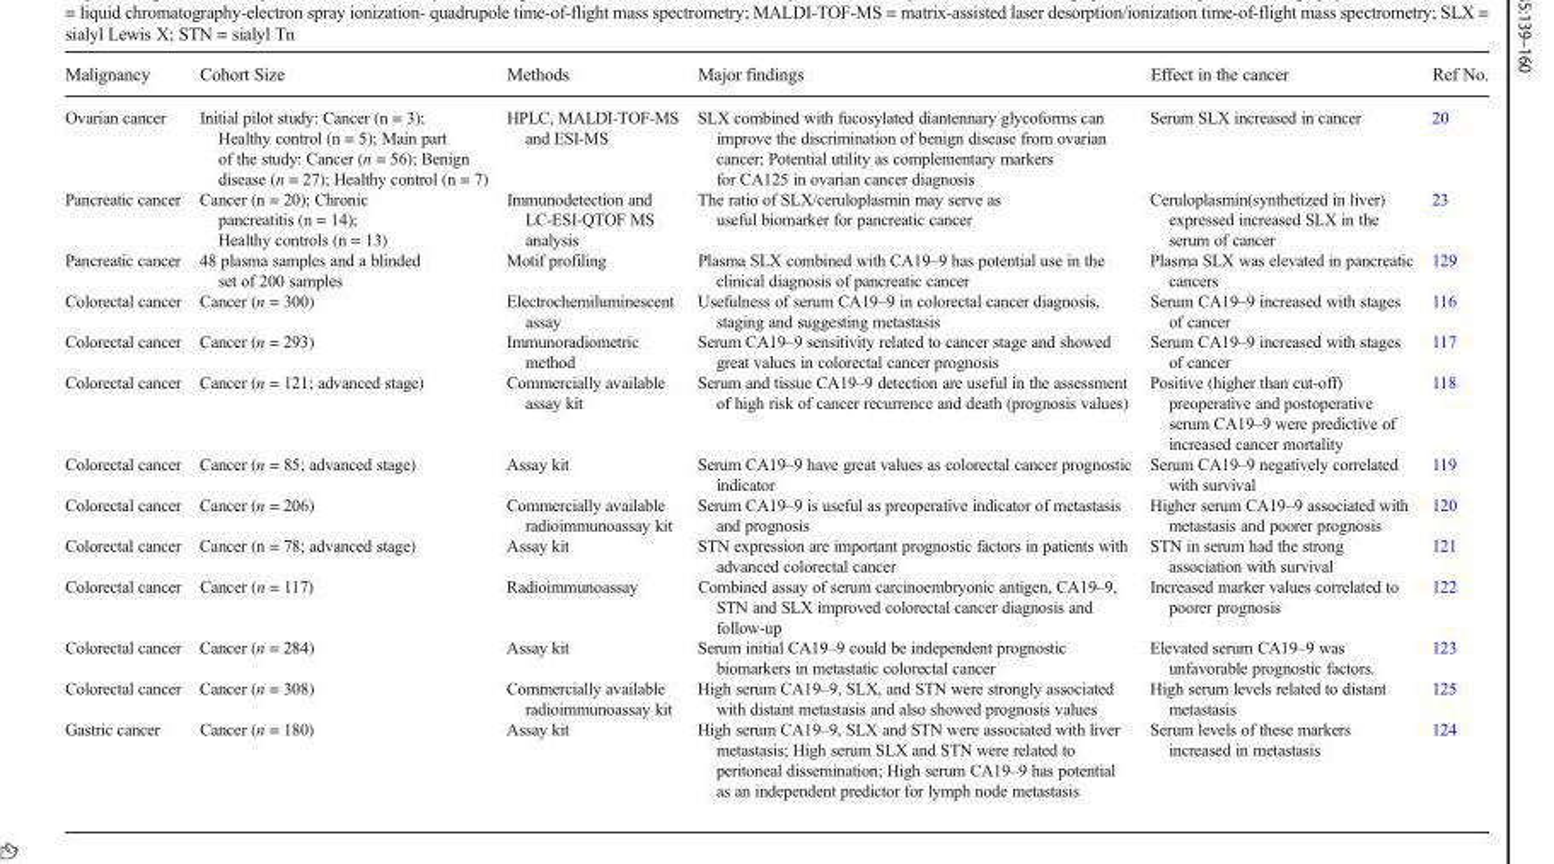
<table><thead><tr><td>Malignancy</td><td>Cohort Size</td><td>Methods</td><td>Major findings</td><td>Effect in the cancer</td><td>Ref No.</td></tr></thead><tbody><tr><td>Ovarian cancer</td><td>Initial pilot study: Cancer (n = 3); Healthy control (n = 5); Main part of the study: Cancer (n = 56); Benign disease (n = 27); Healthy control (n = 7)</td><td>HPLC, MALDI-TOF-MS and ESI-MS</td><td>SLX combined with fucosylated diantennary glycoforms can improve the discrimination of benign disease from ovarian cancer; Potential utility as complementary markers for CA125 in ovarian cancer diagnosis</td><td>Serum SLX increased in cancer</td><td>20</td></tr><tr><td>Pancreatic cancer</td><td>Cancer (n = 20); Chronic pancreatitis (n = 14); Healthy controls (n = 13)</td><td>Immunodetection and LC-ESI-QTOF MS analysis</td><td>The ratio of SLX/ceruloplasmin may serve as useful biomarker for pancreatic cancer</td><td>Ceruloplasmin(synthetized in liver) expressed increased SLX in the serum of cancer</td><td>23</td></tr><tr><td>Pancreatic cancer</td><td>48 plasma samples and a blinded set of 200 samples</td><td>Motif profiling</td><td>Plasma SLX combined with CA19–9 has potential use in the clinical diagnosis of pancreatic cancer</td><td>Plasma SLX was elevated in pancreatic cancers</td><td>129</td></tr><tr><td>Colorectal cancer</td><td>Cancer (n = 300)</td><td>Electrochemiluminescent assay</td><td>Usefulness of serum CA19–9 in colorectal cancer diagnosis, staging and suggesting metastasis</td><td>Serum CA19–9 increased with stages of cancer</td><td>116</td></tr><tr><td>Colorectal cancer</td><td>Cancer (n = 293)</td><td>Immunoradiometric method</td><td>Serum CA19–9 sensitivity related to cancer stage and showed great values in colorectal cancer prognosis</td><td>Serum CA19–9 increased with stages of cancer</td><td>117</td></tr><tr><td>Colorectal cancer</td><td>Cancer (n = 121; advanced stage)</td><td>Commercially available assay kit</td><td>Serum and tissue CA19–9 detection are useful in the assessment of high risk of cancer recurrence and death (prognosis values)</td><td>Positive (higher than cut-off) preoperative and postoperative serum CA19–9 were predictive of increased cancer mortality</td><td>118</td></tr><tr><td>Colorectal cancer</td><td>Cancer (n = 85; advanced stage)</td><td>Assay kit</td><td>Serum CA19–9 have great values as colorectal cancer prognostic indicator</td><td>Serum CA19–9 negatively correlated with survival</td><td>119</td></tr><tr><td>Colorectal cancer</td><td>Cancer (n = 206)</td><td>Commercially available radioimmunoassay kit</td><td>Serum CA19–9 is useful as preoperative indicator of metastasis and prognosis</td><td>Higher serum CA19–9 associated with metastasis and poorer prognosis</td><td>120</td></tr><tr><td>Colorectal cancer</td><td>Cancer (n = 78; advanced stage)</td><td>Assay kit</td><td>STN expression are important prognostic factors in patients with advanced colorectal cancer</td><td>STN in serum had the strong association with survival</td><td>121</td></tr><tr><td>Colorectal cancer</td><td>Cancer (n = 117)</td><td>Radioimmunoassay</td><td>Combined assay of serum carcinoembryonic antigen, CA19–9, STN and SLX improved colorectal cancer diagnosis and follow-up</td><td>Increased marker values correlated to poorer prognosis</td><td>122</td></tr><tr><td>Colorectal cancer</td><td>Cancer (n = 284)</td><td>Assay kit</td><td>Serum initial CA19–9 could be independent prognostic biomarkers in metastatic colorectal cancer</td><td>Elevated serum CA19–9 was unfavorable prognostic factors.</td><td>123</td></tr><tr><td>Colorectal cancer</td><td>Cancer (n = 308)</td><td>Commercially available radioimmunoassay kit</td><td>High serum CA19–9, SLX, and STN were strongly associated with distant metastasis and also showed prognosis values</td><td>High serum levels related to distant metastasis</td><td>125</td></tr><tr><td>Gastric cancer</td><td>Cancer (n = 180)</td><td>Assay kit</td><td>High serum CA19–9, SLX and STN were associated with liver metastasis; High serum SLX and STN were related to peritoneal dissemination; High serum CA19–9 has potential as an independent predictor for lymph node metastasis</td><td>Serum levels of these markers increased in metastasis</td><td>124</td></tr></tbody></table>